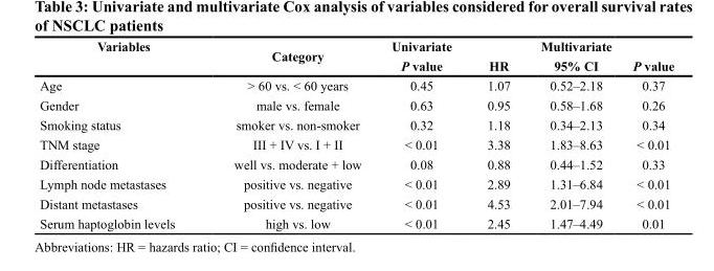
<table><thead><tr><td>Variables</td><td>category</td><td>Univariate P value</td><td>Hr</td><td>Multivariate 95% cI</td><td>P value</td></tr></thead><tbody><tr><td>Age</td><td>&gt; 60 vs. &lt; 60 years</td><td>0.45</td><td>1.07</td><td>0.52–2.18</td><td>0.37</td></tr><tr><td>Gender</td><td>male vs. female</td><td>0.63</td><td>0.95</td><td>0.58–1.68</td><td>0.26</td></tr><tr><td>Smoking status</td><td>smoker vs. non-smoker</td><td>0.32</td><td>1.18</td><td>0.34–2.13</td><td>0.34</td></tr><tr><td>TNM stage</td><td>III + IV vs. I + II</td><td>&lt; 0.01</td><td>3.38</td><td>1.83–8.63</td><td>&lt; 0.01</td></tr><tr><td>Differentiation</td><td>well vs. moderate + low</td><td>0.08</td><td>0.88</td><td>0.44–1.52</td><td>0.33</td></tr><tr><td>Lymph node metastases</td><td>positive vs. negative</td><td>&lt; 0.01</td><td>2.89</td><td>1.31–6.84</td><td>&lt; 0.01</td></tr><tr><td>Distant metastases</td><td>positive vs. negative</td><td>&lt; 0.01</td><td>4.53</td><td>2.01–7.94</td><td>&lt; 0.01</td></tr><tr><td>Serum haptoglobin levels</td><td>high vs. low</td><td>&lt; 0.01</td><td>2.45</td><td>1.47–4.49</td><td>0.01</td></tr></tbody></table>